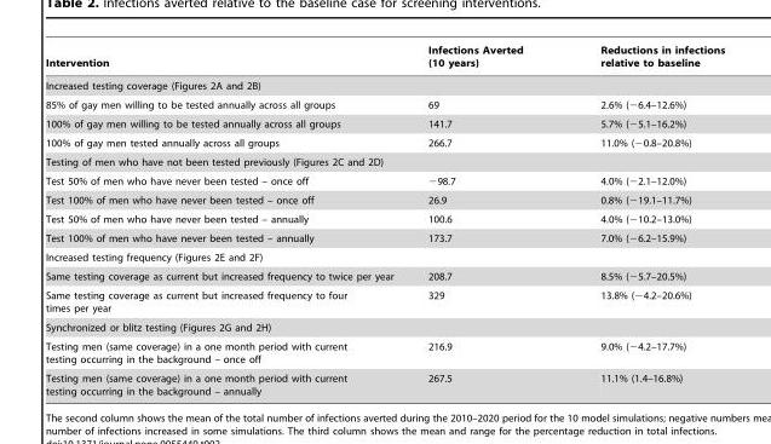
<table><thead><tr><td>Intervention</td><td>Infections Averted (10 years)</td><td>Reductions in infections relative to baseline</td></tr></thead><tbody><tr><td colspan="3">Increased testing coverage (Figures 2A and 2B)</td></tr><tr><td>85% of gay men willing to be tested annually across all groups</td><td>69</td><td>2.6% (−6.4–12.6%)</td></tr><tr><td>100% of gay men willing to be tested annually across all groups</td><td>141.7</td><td>5.7% (−5.1–16.2%)</td></tr><tr><td>100% of gay men tested annually across all groups</td><td>266.7</td><td>11.0% (−0.8–20.8%)</td></tr><tr><td colspan="3">Testing of men who have not been tested previously (Figures 2C and 2D)</td></tr><tr><td>Test 50% of men who have never been tested – once off</td><td>−98.7</td><td>4.0% (−2.1–12.0%)</td></tr><tr><td>Test 100% of men who have never been tested – once off</td><td>26.9</td><td>0.8% (−19.1–11.7%)</td></tr><tr><td>Test 50% of men who have never been tested – annually</td><td>100.6</td><td>4.0% (−10.2–13.0%)</td></tr><tr><td>Test 100% of men who have never been tested – annually</td><td>173.7</td><td>7.0% (−6.2–15.9%)</td></tr><tr><td colspan="3">Increased testing frequency (Figures 2E and 2F)</td></tr><tr><td>Same testing coverage as current but increased frequency to twice per year</td><td>208.7</td><td>8.5% (−5.7–20.5%)</td></tr><tr><td>Same testing coverage as current but increased frequency to four times per year</td><td>329</td><td>13.8% (−4.2–20.6%)</td></tr><tr><td colspan="3">Synchronized or blitz testing (Figures 2G and 2H)</td></tr><tr><td>Testing men (same coverage) in a one month period with current testing occurring in the background – once off</td><td>216.9</td><td>9.0% (−4.2–17.7%)</td></tr><tr><td>Testing men (same coverage) in a one month period with current testing occurring in the background – annually</td><td>267.5</td><td>11.1% (1.4–16.8%)</td></tr></tbody></table>